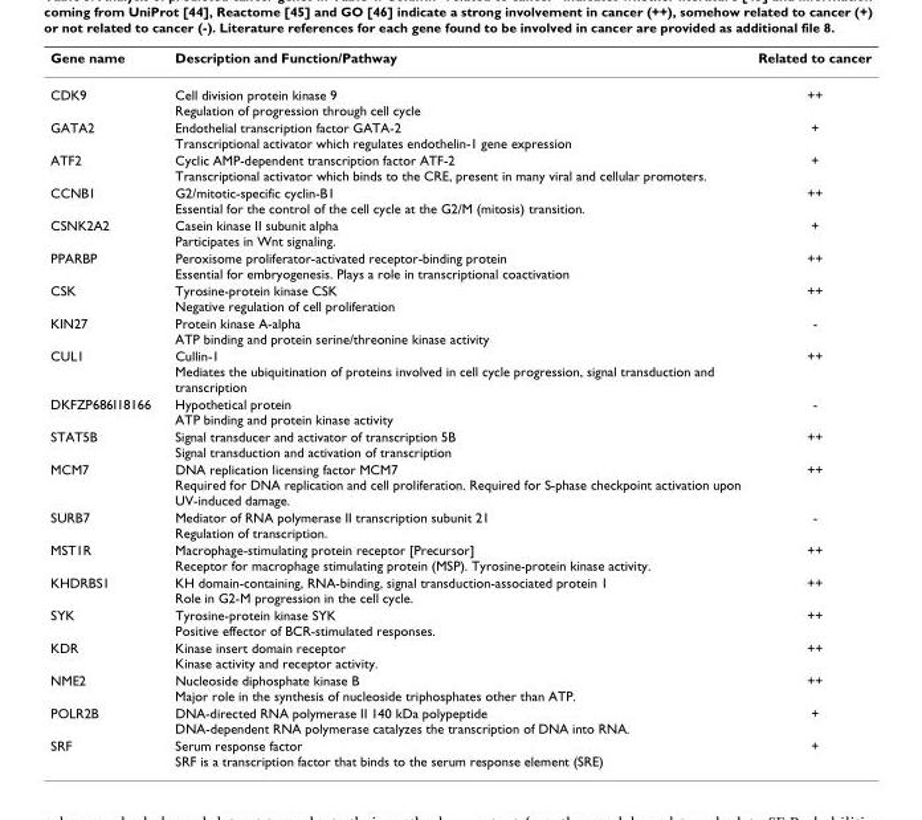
<table><thead><tr><td>Gene name</td><td>Description and Function/Pathway</td><td>Related to cancer</td></tr></thead><tbody><tr><td>CDK9</td><td>Cell division protein kinase 9 Regulation of progression through cell cycle</td><td>++</td></tr><tr><td>GATA2</td><td>Endothelial transcription factor GATA-2 Transcriptional activator which regulates endothelin-1 gene expression</td><td>+</td></tr><tr><td>ATF2</td><td>Cyclic AMP-dependent transcription factor ATF-2 Transcriptional activator which binds to the CRE, present in many viral and cellular promoters.</td><td>+</td></tr><tr><td>CCNB1</td><td>G2/mitotic-specific cyclin-B1 Essential for the control of the cell cycle at the G2/M (mitosis) transition.</td><td>++</td></tr><tr><td>CSNK2A2</td><td>Casein kinase II subunit alpha Participates in Wnt signaling.</td><td>+</td></tr><tr><td>PPARBP</td><td>Peroxisome proliferator-activated receptor-binding protein Essential for embryogenesis. Plays a role in transcriptional coactivation</td><td>++</td></tr><tr><td>CSK</td><td>Tyrosine-protein kinase CSK Negative regulation of cell proliferation</td><td>++</td></tr><tr><td>KIN27</td><td>Protein kinase A-alpha ATP binding and protein serine/threonine kinase activity</td><td>-</td></tr><tr><td>CUL1</td><td>Cullin-1 Mediates the ubiquitination of proteins involved in cell cycle progression, signal transduction and transcription</td><td>++</td></tr><tr><td>DKFZP686I18166</td><td>Hypothetical protein ATP binding and protein kinase activity</td><td>-</td></tr><tr><td>STAT5B</td><td>Signal transducer and activator of transcription 5B Signal transduction and activation of transcription</td><td>++</td></tr><tr><td>MCM7</td><td>DNA replication licensing factor MCM7 Required for DNA replication and cell proliferation. Required for S-phase checkpoint activation upon UV-induced damage.</td><td>++</td></tr><tr><td>SURB7</td><td>Mediator of RNA polymerase II transcription subunit 21 Regulation of transcription.</td><td>-</td></tr><tr><td>MST1R</td><td>Macrophage-stimulating protein receptor [Precursor] Receptor for macrophage stimulating protein (MSP). Tyrosine-protein kinase activity.</td><td>++</td></tr><tr><td>KHDRBS1</td><td>KH domain-containing, RNA-binding, signal transduction-associated protein 1 Role in G2-M progression in the cell cycle.</td><td>++</td></tr><tr><td>SYK</td><td>Tyrosine-protein kinase SYK Positive effector of BCR-stimulated responses.</td><td>++</td></tr><tr><td>KDR</td><td>Kinase insert domain receptor Kinase activity and receptor activity.</td><td>++</td></tr><tr><td>NME2</td><td>Nucleoside diphosphate kinase B Major role in the synthesis of nucleoside triphosphates other than ATP.</td><td>++</td></tr><tr><td>POLR2B</td><td>DNA-directed RNA polymerase II 140 kDa polypeptide DNA-dependent RNA polymerase catalyzes the transcription of DNA into RNA.</td><td>+</td></tr><tr><td>SRF</td><td>Serum response factor SRF is a transcription factor that binds to the serum response element (SRE)</td><td>+</td></tr></tbody></table>